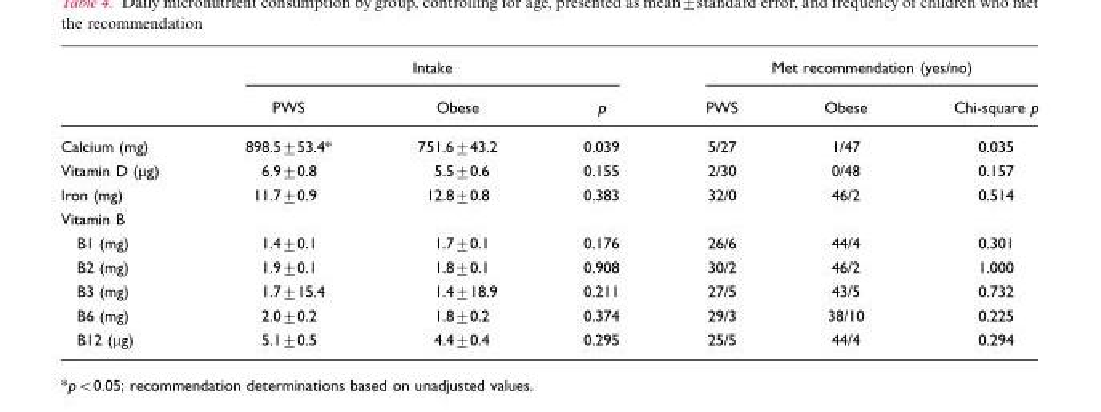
<table><thead><tr><td rowspan="2"></td><td colspan="3">Intake</td><td colspan="3">Met recommendation (yes/no)</td></tr><tr><td>PWS</td><td>Obese</td><td>p</td><td>PWS</td><td>Obese</td><td>Chi-square p</td></tr></thead><tbody><tr><td>Calcium (mg)</td><td>898.5±53.4*</td><td>751.6±43.2</td><td>0.039</td><td>5/27</td><td>1/47</td><td>0.035</td></tr><tr><td>Vitamin D (µg)</td><td>6.9±0.8</td><td>5.5±0.6</td><td>0.155</td><td>2/30</td><td>0/48</td><td>0.157</td></tr><tr><td>Iron (mg)</td><td>11.7±0.9</td><td>12.8±0.8</td><td>0.383</td><td>32/0</td><td>46/2</td><td>0.514</td></tr><tr><td colspan="7">Vitamin B</td></tr><tr><td>B1 (mg)</td><td>1.4±0.1</td><td>1.7±0.1</td><td>0.176</td><td>26/6</td><td>44/4</td><td>0.301</td></tr><tr><td>B2 (mg)</td><td>1.9±0.1</td><td>1.8±0.1</td><td>0.908</td><td>30/2</td><td>46/2</td><td>1.000</td></tr><tr><td>B3 (mg)</td><td>1.7±15.4</td><td>1.4±18.9</td><td>0.211</td><td>27/5</td><td>43/5</td><td>0.732</td></tr><tr><td>B6 (mg)</td><td>2.0±0.2</td><td>1.8±0.2</td><td>0.374</td><td>29/3</td><td>38/10</td><td>0.225</td></tr><tr><td>B12 (µg)</td><td>5.1±0.5</td><td>4.4±0.4</td><td>0.295</td><td>25/5</td><td>44/4</td><td>0.294</td></tr></tbody></table>